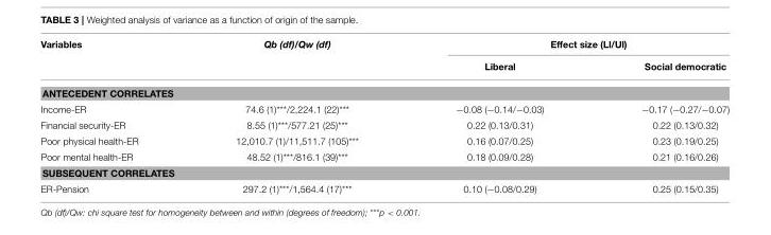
<table><thead><tr><td rowspan="2">Variables</td><td rowspan="2">Qb (df)/Qw (df)</td><td colspan="2">Effect size (Ll/Ul)</td></tr><tr><td>Liberal</td><td>Social democratic</td></tr></thead><tbody><tr><td colspan="4">ANTECEDENT CORRELATES</td></tr><tr><td>Income-ER</td><td>74.6 (1)***/2,224.1 (22)***</td><td>−0.08 (−0.14/−0.03)</td><td>−0.17 (−0.27/−0.07)</td></tr><tr><td>Financial security-ER</td><td>8.55 (1)***/577.21 (25)***</td><td>0.22 (0.13/0.31)</td><td>0.22 (0.13/0.32)</td></tr><tr><td>Poor physical health-ER</td><td>12,010.7 (1)/11,511.7 (105)***</td><td>0.16 (0.07/0.25)</td><td>0.23 (0.19/0.25)</td></tr><tr><td>Poor mental health-ER</td><td>48.52 (1)***/816.1 (39)***</td><td>0.18 (0.09/0.28)</td><td>0.21 (0.16/0.26)</td></tr><tr><td colspan="4">SUBSEQUENT CORRELATES</td></tr><tr><td>ER-Pension</td><td>297.2 (1)***/1,564.4 (17)***</td><td>0.10 (−0.08/0.29)</td><td>0.25 (0.15/0.35)</td></tr></tbody></table>